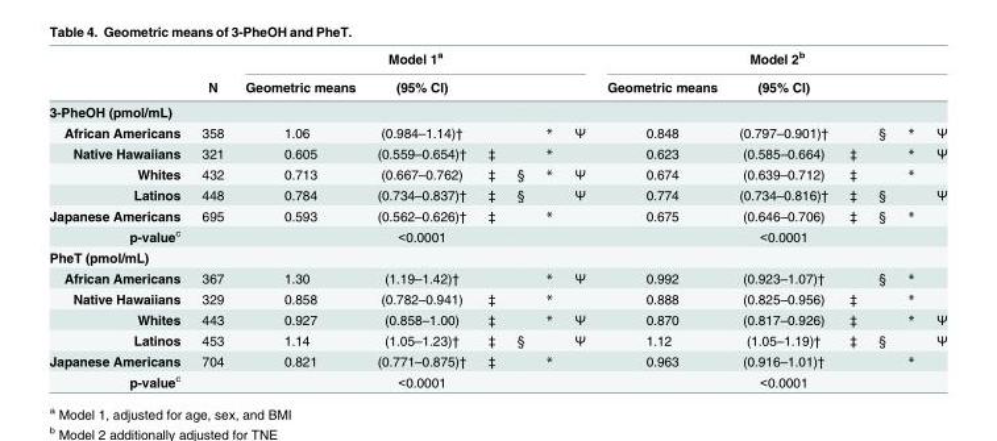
<table><thead><tr><td rowspan="2"></td><td rowspan="2">N</td><td colspan="6">Model 1<sup>a</sup></td><td colspan="6">Model 2<sup>b</sup></td></tr><tr><td>Geometric means</td><td>(95% CI)</td><td></td><td></td><td></td><td></td><td>Geometric means</td><td>(95% CI)</td><td></td><td></td><td></td><td></td></tr></thead><tbody><tr><td colspan="14">3-PheOH (pmol/mL)</td></tr><tr><td>African Americans</td><td>358</td><td>1.06</td><td>(0.984–1.14)†</td><td></td><td></td><td>*</td><td>Ψ</td><td>0.848</td><td>(0.797–0.901)†</td><td></td><td>§</td><td>*</td><td>Ψ</td></tr><tr><td>Native Hawaiians</td><td>321</td><td>0.605</td><td>(0.559–0.654)†</td><td>‡</td><td></td><td>*</td><td></td><td>0.623</td><td>(0.585–0.664)</td><td>‡</td><td></td><td>*</td><td>Ψ</td></tr><tr><td>Whites</td><td>432</td><td>0.713</td><td>(0.667–0.762)</td><td>‡</td><td>§</td><td>*</td><td>Ψ</td><td>0.674</td><td>(0.639–0.712)</td><td>‡</td><td></td><td>*</td><td></td></tr><tr><td>Latinos</td><td>448</td><td>0.784</td><td>(0.734–0.837)†</td><td>‡</td><td>§</td><td></td><td>Ψ</td><td>0.774</td><td>(0.734–0.816)†</td><td>‡</td><td>§</td><td></td><td>Ψ</td></tr><tr><td>Japanese Americans</td><td>695</td><td>0.593</td><td>(0.562–0.626)†</td><td>‡</td><td></td><td>*</td><td></td><td>0.675</td><td>(0.646–0.706)</td><td>‡</td><td>§</td><td>*</td><td></td></tr><tr><td>p-value<sup>c</sup></td><td></td><td></td><td>&lt;0.0001</td><td></td><td></td><td></td><td></td><td></td><td>&lt;0.0001</td><td></td><td></td><td></td><td></td></tr><tr><td colspan="14">PheT (pmol/mL)</td></tr><tr><td>African Americans</td><td>367</td><td>1.30</td><td>(1.19–1.42)†</td><td></td><td></td><td>*</td><td>Ψ</td><td>0.992</td><td>(0.923–1.07)†</td><td></td><td>§</td><td>*</td><td></td></tr><tr><td>Native Hawaiians</td><td>329</td><td>0.858</td><td>(0.782–0.941)</td><td>‡</td><td></td><td>*</td><td></td><td>0.888</td><td>(0.825–0.956)</td><td>‡</td><td></td><td>*</td><td></td></tr><tr><td>Whites</td><td>443</td><td>0.927</td><td>(0.858–1.00)</td><td>‡</td><td></td><td>*</td><td>Ψ</td><td>0.870</td><td>(0.817–0.926)</td><td>‡</td><td></td><td>*</td><td>Ψ</td></tr><tr><td>Latinos</td><td>453</td><td>1.14</td><td>(1.05–1.23)†</td><td>‡</td><td>§</td><td></td><td>Ψ</td><td>1.12</td><td>(1.05–1.19)†</td><td>‡</td><td>§</td><td></td><td>Ψ</td></tr><tr><td>Japanese Americans</td><td>704</td><td>0.821</td><td>(0.771–0.875)†</td><td>‡</td><td></td><td>*</td><td></td><td>0.963</td><td>(0.916–1.01)†</td><td></td><td></td><td>*</td><td></td></tr><tr><td>p-value<sup>c</sup></td><td></td><td></td><td>&lt;0.0001</td><td></td><td></td><td></td><td></td><td></td><td>&lt;0.0001</td><td></td><td></td><td></td><td></td></tr></tbody></table>